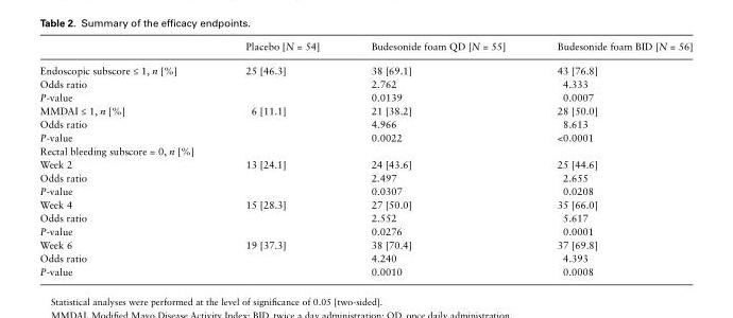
<table><thead><tr><td></td><td>Placebo [N = 54]</td><td>Budesonide foam QD [N = 55]</td><td>Budesonide foam BID [N = 56]</td></tr></thead><tbody><tr><td>Endoscopic subscore ≤ 1, n [%]</td><td>25 [46.3]</td><td>38 [69.1]</td><td>43 [76.8]</td></tr><tr><td>Odds ratio</td><td></td><td>2.762</td><td>4.333</td></tr><tr><td>P-value</td><td></td><td>0.0139</td><td>0.0007</td></tr><tr><td>MMDAI ≤ 1, n [%]</td><td>6 [11.1]</td><td>21 [38.2]</td><td>28 [50.0]</td></tr><tr><td>Odds ratio</td><td></td><td>4.966</td><td>8.613</td></tr><tr><td>P-value</td><td></td><td>0.0022</td><td>&lt;0.0001</td></tr><tr><td colspan="4">Rectal bleeding subscore = 0, n [%]</td></tr><tr><td>Week 2</td><td>13 [24.1]</td><td>24 [43.6]</td><td>25 [44.6]</td></tr><tr><td>Odds ratio</td><td></td><td>2.497</td><td>2.655</td></tr><tr><td>P-value</td><td></td><td>0.0307</td><td>0.0208</td></tr><tr><td>Week 4</td><td>15 [28.3]</td><td>27 [50.0]</td><td>35 [66.0]</td></tr><tr><td>Odds ratio</td><td></td><td>2.552</td><td>5.617</td></tr><tr><td>P-value</td><td></td><td>0.0276</td><td>0.0001</td></tr><tr><td>Week 6</td><td>19 [37.3]</td><td>38 [70.4]</td><td>37 [69.8]</td></tr><tr><td>Odds ratio</td><td></td><td>4.240</td><td>4.393</td></tr><tr><td>P-value</td><td></td><td>0.0010</td><td>0.0008</td></tr></tbody></table>